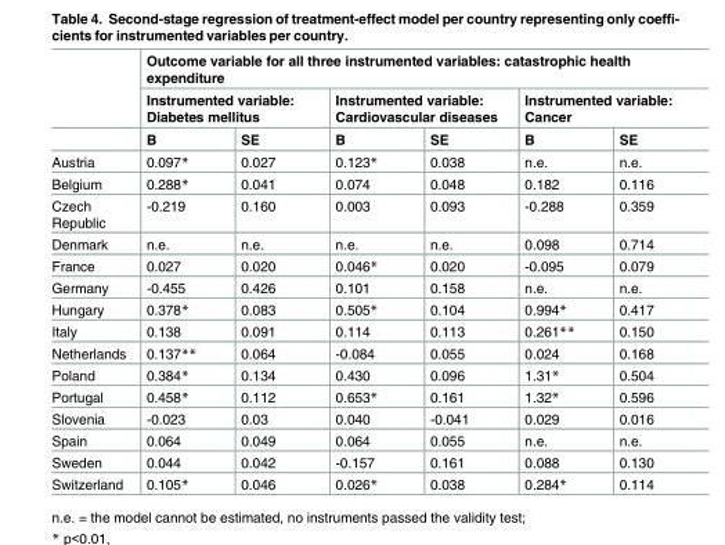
<table><thead><tr><td rowspan="3"></td><td colspan="6">Outcome variable for all three instrumented variables: catastrophic health expenditure</td></tr><tr><td colspan="2">Instrumented variable: Diabetes mellitus</td><td colspan="2">Instrumented variable: Cardiovascular diseases</td><td colspan="2">Instrumented variable: Cancer</td></tr><tr><td>B</td><td>SE</td><td>B</td><td>SE</td><td>B</td><td>SE</td></tr></thead><tbody><tr><td>Austria</td><td>0.097*</td><td>0.027</td><td>0.123*</td><td>0.038</td><td>n.e.</td><td>n.e.</td></tr><tr><td>Belgium</td><td>0.288*</td><td>0.041</td><td>0.074</td><td>0.048</td><td>0.182</td><td>0.116</td></tr><tr><td>Czech Republic</td><td>-0.219</td><td>0.160</td><td>0.003</td><td>0.093</td><td>-0.288</td><td>0.359</td></tr><tr><td>Denmark</td><td>n.e.</td><td>n.e.</td><td>n.e.</td><td>n.e.</td><td>0.098</td><td>0.714</td></tr><tr><td>France</td><td>0.027</td><td>0.020</td><td>0.046*</td><td>0.020</td><td>-0.095</td><td>0.079</td></tr><tr><td>Germany</td><td>-0.455</td><td>0.426</td><td>0.101</td><td>0.158</td><td>n.e.</td><td>n.e.</td></tr><tr><td>Hungary</td><td>0.378*</td><td>0.083</td><td>0.505*</td><td>0.104</td><td>0.994*</td><td>0.417</td></tr><tr><td>Italy</td><td>0.138</td><td>0.091</td><td>0.114</td><td>0.113</td><td>0.261**</td><td>0.150</td></tr><tr><td>Netherlands</td><td>0.137**</td><td>0.064</td><td>-0.084</td><td>0.055</td><td>0.024</td><td>0.168</td></tr><tr><td>Poland</td><td>0.384*</td><td>0.134</td><td>0.430</td><td>0.096</td><td>1.31*</td><td>0.504</td></tr><tr><td>Portugal</td><td>0.458*</td><td>0.112</td><td>0.653*</td><td>0.161</td><td>1.32*</td><td>0.596</td></tr><tr><td>Slovenia</td><td>-0.023</td><td>0.03</td><td>0.040</td><td>-0.041</td><td>0.029</td><td>0.016</td></tr><tr><td>Spain</td><td>0.064</td><td>0.049</td><td>0.064</td><td>0.055</td><td>n.e.</td><td>n.e.</td></tr><tr><td>Sweden</td><td>0.044</td><td>0.042</td><td>-0.157</td><td>0.161</td><td>0.088</td><td>0.130</td></tr><tr><td>Switzerland</td><td>0.105*</td><td>0.046</td><td>0.026*</td><td>0.038</td><td>0.284*</td><td>0.114</td></tr></tbody></table>